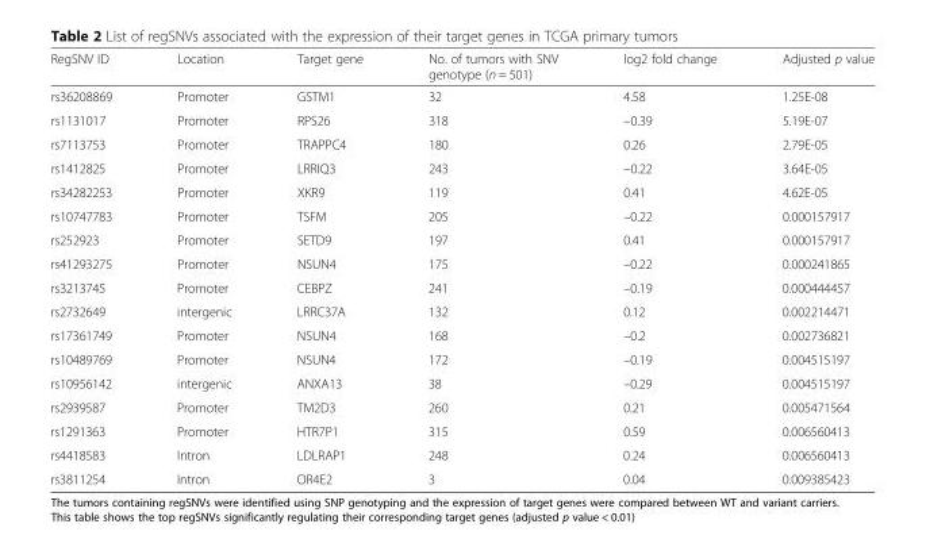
<table><thead><tr><td>RegSNV ID</td><td>Location</td><td>Target gene</td><td>No. of tumors with SNV genotype (n = 501)</td><td>log2 fold change</td><td>Adjusted p value</td></tr></thead><tbody><tr><td>rs36208869</td><td>Promoter</td><td>GSTM1</td><td>32</td><td>4.58</td><td>1.25E-08</td></tr><tr><td>rs1131017</td><td>Promoter</td><td>RPS26</td><td>318</td><td>–0.39</td><td>5.19E-07</td></tr><tr><td>rs7113753</td><td>Promoter</td><td>TRAPPC4</td><td>180</td><td>0.26</td><td>2.79E-05</td></tr><tr><td>rs1412825</td><td>Promoter</td><td>LRRIQ3</td><td>243</td><td>–0.22</td><td>3.64E-05</td></tr><tr><td>rs34282253</td><td>Promoter</td><td>XKR9</td><td>119</td><td>0.41</td><td>4.62E-05</td></tr><tr><td>rs10747783</td><td>Promoter</td><td>TSFM</td><td>205</td><td>–0.22</td><td>0.000157917</td></tr><tr><td>rs252923</td><td>Promoter</td><td>SETD9</td><td>197</td><td>0.41</td><td>0.000157917</td></tr><tr><td>rs41293275</td><td>Promoter</td><td>NSUN4</td><td>175</td><td>–0.22</td><td>0.000241865</td></tr><tr><td>rs3213745</td><td>Promoter</td><td>CEBPZ</td><td>241</td><td>–0.19</td><td>0.000444457</td></tr><tr><td>rs2732649</td><td>intergenic</td><td>LRRC37A</td><td>132</td><td>0.12</td><td>0.002214471</td></tr><tr><td>rs17361749</td><td>Promoter</td><td>NSUN4</td><td>168</td><td>–0.2</td><td>0.002736821</td></tr><tr><td>rs10489769</td><td>Promoter</td><td>NSUN4</td><td>172</td><td>–0.19</td><td>0.004515197</td></tr><tr><td>rs10956142</td><td>intergenic</td><td>ANXA13</td><td>38</td><td>–0.29</td><td>0.004515197</td></tr><tr><td>rs2939587</td><td>Promoter</td><td>TM2D3</td><td>260</td><td>0.21</td><td>0.005471564</td></tr><tr><td>rs1291363</td><td>Promoter</td><td>HTR7P1</td><td>315</td><td>0.59</td><td>0.006560413</td></tr><tr><td>rs4418583</td><td>Intron</td><td>LDLRAP1</td><td>248</td><td>0.24</td><td>0.006560413</td></tr><tr><td>rs3811254</td><td>Intron</td><td>OR4E2</td><td>3</td><td>0.04</td><td>0.009385423</td></tr></tbody></table>